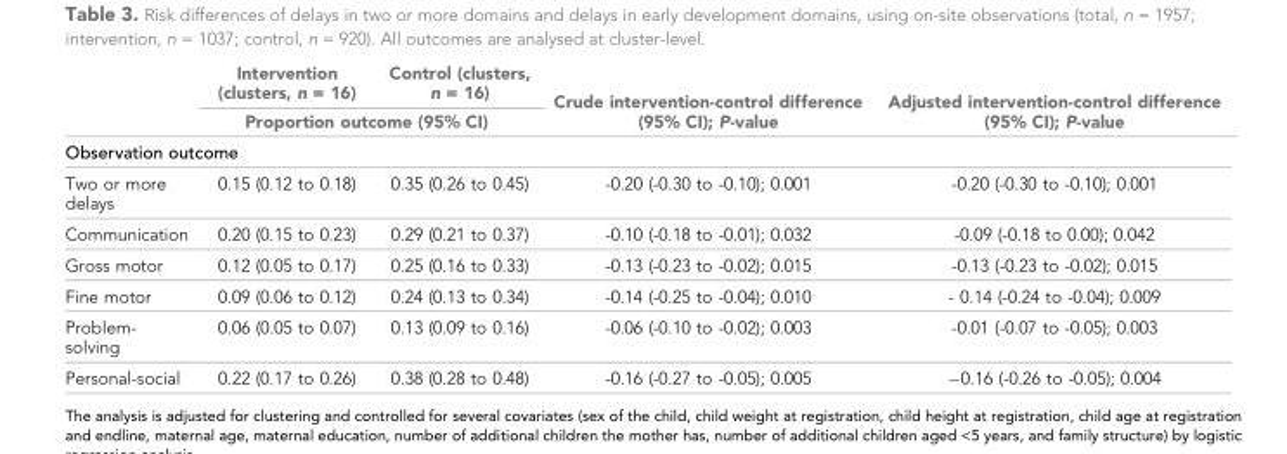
<table><thead><tr><td rowspan="2"></td><td>Intervention (clusters, n = 16)</td><td>Control (clusters, n = 16)</td><td rowspan="2">Crude intervention-control difference (95% CI); P-value</td><td rowspan="2">Adjusted intervention-control difference (95% CI); P-value</td></tr><tr><td colspan="2">Proportion outcome (95% CI)</td></tr></thead><tbody><tr><td colspan="5">Observation outcome</td></tr><tr><td>Two or more delays</td><td>0.15 (0.12 to 0.18)</td><td>0.35 (0.26 to 0.45)</td><td>-0.20 (-0.30 to -0.10); 0.001</td><td>-0.20 (-0.30 to -0.10); 0.001</td></tr><tr><td>Communication</td><td>0.20 (0.15 to 0.23)</td><td>0.29 (0.21 to 0.37)</td><td>-0.10 (-0.18 to -0.01); 0.032</td><td>-0.09 (-0.18 to 0.00); 0.042</td></tr><tr><td>Gross motor</td><td>0.12 (0.05 to 0.17)</td><td>0.25 (0.16 to 0.33)</td><td>-0.13 (-0.23 to -0.02); 0.015</td><td>-0.13 (-0.23 to -0.02); 0.015</td></tr><tr><td>Fine motor</td><td>0.09 (0.06 to 0.12)</td><td>0.24 (0.13 to 0.34)</td><td>-0.14 (-0.25 to -0.04); 0.010</td><td>- 0.14 (-0.24 to -0.04); 0.009</td></tr><tr><td>Problem- solving</td><td>0.06 (0.05 to 0.07)</td><td>0.13 (0.09 to 0.16)</td><td>-0.06 (-0.10 to -0.02); 0.003</td><td>-0.01 (-0.07 to -0.05); 0.003</td></tr><tr><td>Personal-social</td><td>0.22 (0.17 to 0.26)</td><td>0.38 (0.28 to 0.48)</td><td>-0.16 (-0.27 to -0.05); 0.005</td><td>−0.16 (-0.26 to -0.05); 0.004</td></tr></tbody></table>